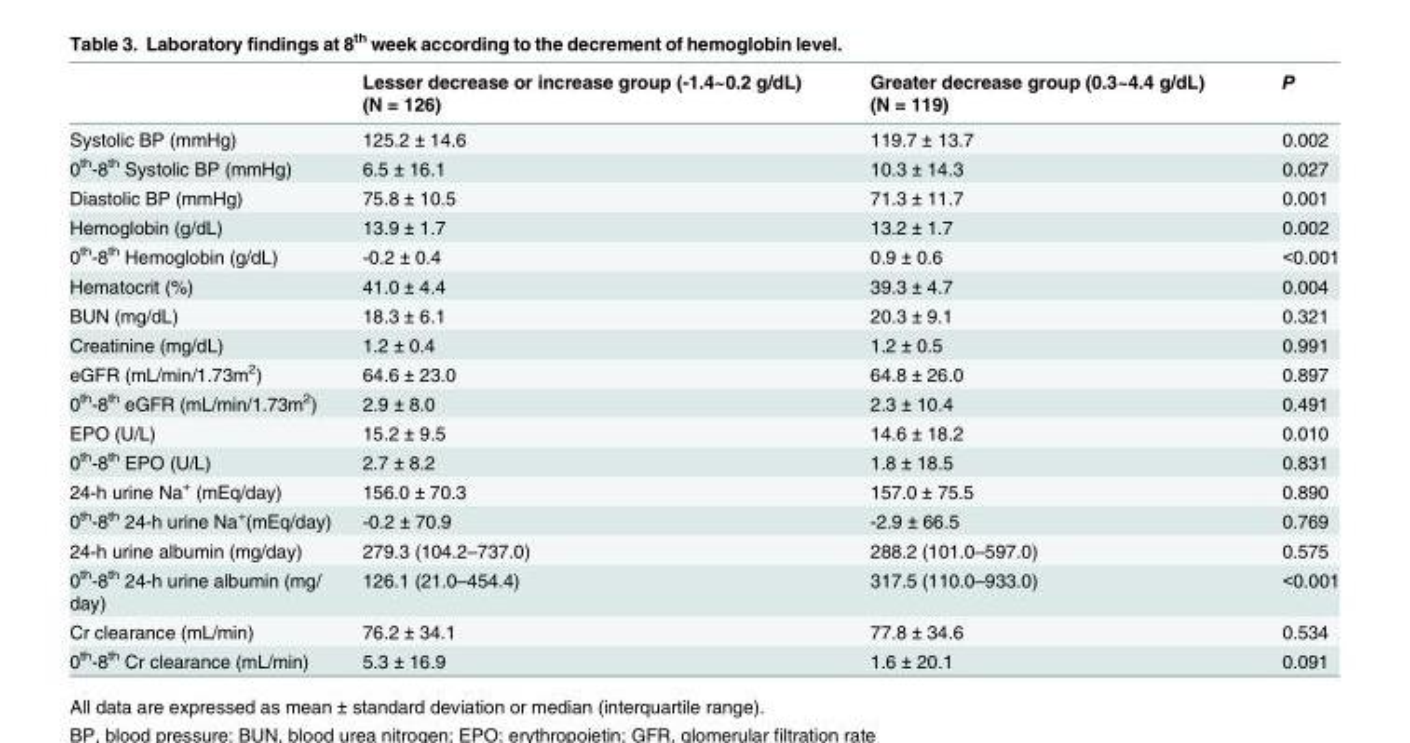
<table><thead><tr><td></td><td>Lesser decrease or increase group (-1.4~0.2 g/dL) (N = 126)</td><td>Greater decrease group (0.3~4.4 g/dL) (N = 119)</td><td>P</td></tr></thead><tbody><tr><td>Systolic BP (mmHg)</td><td>125.2 ± 14.6</td><td>119.7 ± 13.7</td><td>0.002</td></tr><tr><td>0<sup>th</sup>-8<sup>th</sup> Systolic BP (mmHg)</td><td>6.5 ± 16.1</td><td>10.3 ± 14.3</td><td>0.027</td></tr><tr><td>Diastolic BP (mmHg)</td><td>75.8 ± 10.5</td><td>71.3 ± 11.7</td><td>0.001</td></tr><tr><td>Hemoglobin (g/dL)</td><td>13.9 ± 1.7</td><td>13.2 ± 1.7</td><td>0.002</td></tr><tr><td>0<sup>th</sup>-8<sup>th</sup> Hemoglobin (g/dL)</td><td>-0.2 ± 0.4</td><td>0.9 ± 0.6</td><td>&lt;0.001</td></tr><tr><td>Hematocrit (%)</td><td>41.0 ± 4.4</td><td>39.3 ± 4.7</td><td>0.004</td></tr><tr><td>BUN (mg/dL)</td><td>18.3 ± 6.1</td><td>20.3 ± 9.1</td><td>0.321</td></tr><tr><td>Creatinine (mg/dL)</td><td>1.2 ± 0.4</td><td>1.2 ± 0.5</td><td>0.991</td></tr><tr><td>eGFR (mL/min/1.73m<sup>2</sup>)</td><td>64.6 ± 23.0</td><td>64.8 ± 26.0</td><td>0.897</td></tr><tr><td>0<sup>th</sup>-8<sup>th</sup> eGFR (mL/min/1.73m<sup>2</sup>)</td><td>2.9 ± 8.0</td><td>2.3 ± 10.4</td><td>0.491</td></tr><tr><td>EPO (U/L)</td><td>15.2 ± 9.5</td><td>14.6 ± 18.2</td><td>0.010</td></tr><tr><td>0<sup>th</sup>-8<sup>th</sup> EPO (U/L)</td><td>2.7 ± 8.2</td><td>1.8 ± 18.5</td><td>0.831</td></tr><tr><td>24-h urine Na<sup>+</sup> (mEq/day)</td><td>156.0 ± 70.3</td><td>157.0 ± 75.5</td><td>0.890</td></tr><tr><td>0<sup>th</sup>-8<sup>th</sup> 24-h urine Na<sup>+</sup>(mEq/day)</td><td>-0.2 ± 70.9</td><td>-2.9 ± 66.5</td><td>0.769</td></tr><tr><td>24-h urine albumin (mg/day)</td><td>279.3 (104.2–737.0)</td><td>288.2 (101.0–597.0)</td><td>0.575</td></tr><tr><td>0<sup>th</sup>-8<sup>th</sup> 24-h urine albumin (mg/ day)</td><td>126.1 (21.0–454.4)</td><td>317.5 (110.0–933.0)</td><td>&lt;0.001</td></tr><tr><td>Cr clearance (mL/min)</td><td>76.2 ± 34.1</td><td>77.8 ± 34.6</td><td>0.534</td></tr><tr><td>0<sup>th</sup>-8<sup>th</sup> Cr clearance (mL/min)</td><td>5.3 ± 16.9</td><td>1.6 ± 20.1</td><td>0.091</td></tr></tbody></table>